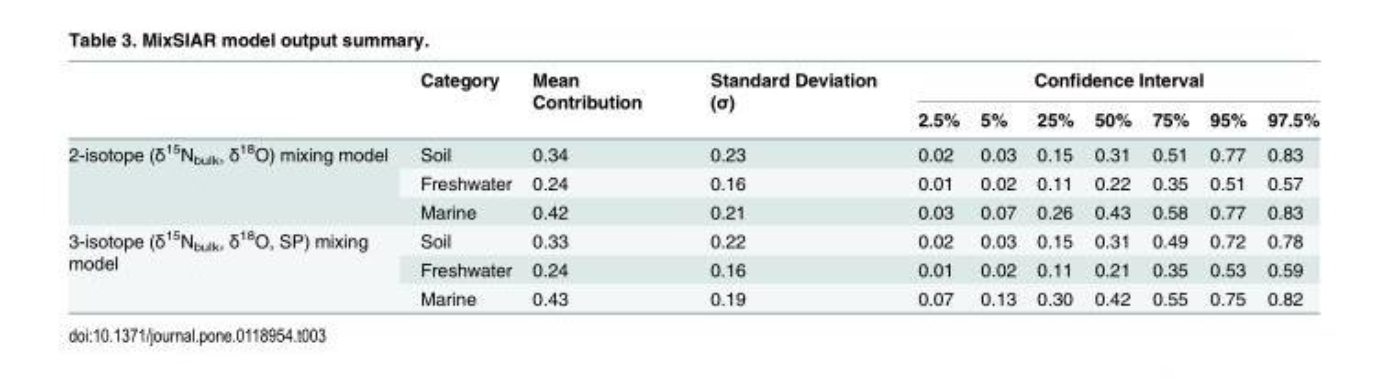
<table><thead><tr><td rowspan="2"></td><td rowspan="2">Category</td><td rowspan="2">Mean Contribution</td><td rowspan="2">Standard Deviation (σ)</td><td colspan="7">Confidence Interval</td></tr><tr><td>2.5%</td><td>5%</td><td>25%</td><td>50%</td><td>75%</td><td>95%</td><td>97.5%</td></tr></thead><tbody><tr><td rowspan="3">2-isotope (δ<sup>15</sup>N<sub>bulk</sub>, δ<sup>18</sup>O) mixing model</td><td>Soil</td><td>0.34</td><td>0.23</td><td>0.02</td><td>0.03</td><td>0.15</td><td>0.31</td><td>0.51</td><td>0.77</td><td>0.83</td></tr><tr><td>Freshwater</td><td>0.24</td><td>0.16</td><td>0.01</td><td>0.02</td><td>0.11</td><td>0.22</td><td>0.35</td><td>0.51</td><td>0.57</td></tr><tr><td>Marine</td><td>0.42</td><td>0.21</td><td>0.03</td><td>0.07</td><td>0.26</td><td>0.43</td><td>0.58</td><td>0.77</td><td>0.83</td></tr><tr><td rowspan="3">3-isotope (δ<sup>15</sup>N<sub>bulk</sub>, δ<sup>18</sup>O, SP) mixing model</td><td>Soil</td><td>0.33</td><td>0.22</td><td>0.02</td><td>0.03</td><td>0.15</td><td>0.31</td><td>0.49</td><td>0.72</td><td>0.78</td></tr><tr><td>Freshwater</td><td>0.24</td><td>0.16</td><td>0.01</td><td>0.02</td><td>0.11</td><td>0.21</td><td>0.35</td><td>0.53</td><td>0.59</td></tr><tr><td>Marine</td><td>0.43</td><td>0.19</td><td>0.07</td><td>0.13</td><td>0.30</td><td>0.42</td><td>0.55</td><td>0.75</td><td>0.82</td></tr></tbody></table>